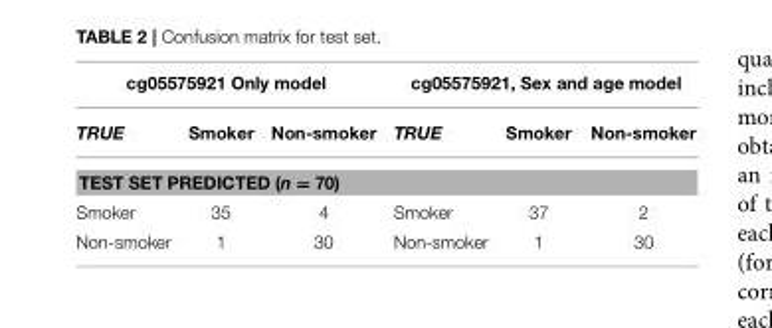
<table><thead><tr><td colspan="3">cg05575921 Only model</td><td colspan="3">cg05575921, Sex and age model</td></tr><tr><td>TRUE</td><td>Smoker</td><td>Non-smoker</td><td>TRUE</td><td>Smoker</td><td>Non-smoker</td></tr></thead><tbody><tr><td colspan="6">TEST SET PREDICTED (n = 70)</td></tr><tr><td>Smoker</td><td>35</td><td>4</td><td>Smoker</td><td>37</td><td>2</td></tr><tr><td>Non-smoker</td><td>1</td><td>30</td><td>Non-smoker</td><td>1</td><td>30</td></tr></tbody></table>